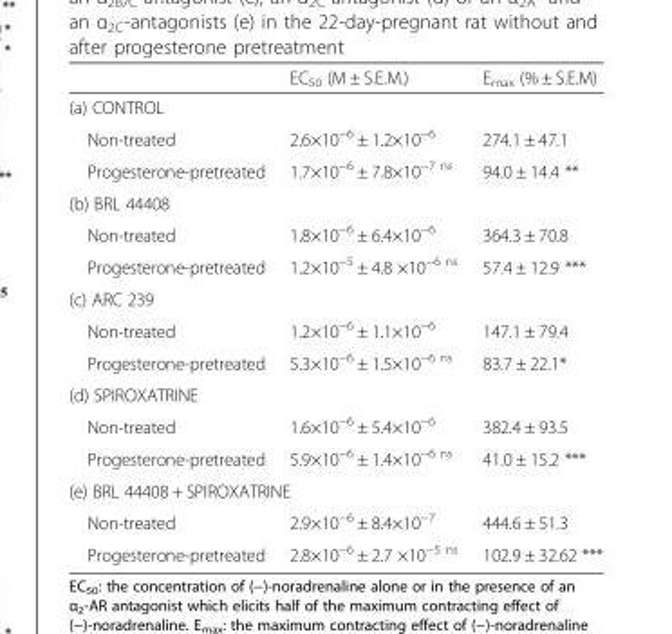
<table><thead><tr><td></td><td>EC<sub>50</sub> (M ± S.E.M.)</td><td>E<sub>max</sub> (% ± S.E.M)</td></tr></thead><tbody><tr><td colspan="3">(a) CONTROL</td></tr><tr><td>Non-treated</td><td>2.6×10<sup>−6</sup> ± 1.2×10<sup>−6</sup></td><td>274.1 ± 47.1</td></tr><tr><td>Progesterone-pretreated</td><td>1.7×10<sup>−6</sup> ± 7.8×10<sup>−7 ns</sup></td><td>94.0 ± 14.4 **</td></tr><tr><td colspan="3">(b) BRL 44408</td></tr><tr><td>Non-treated</td><td>1.8×10<sup>−6</sup> ± 6.4×10<sup>−6</sup></td><td>364.3 ± 70.8</td></tr><tr><td>Progesterone-pretreated</td><td>1.2×10<sup>−5</sup> ± 4.8 ×10<sup>−6 ns</sup></td><td>57.4 ± 12.9 ***</td></tr><tr><td colspan="3">(c) ARC 239</td></tr><tr><td>Non-treated</td><td>1.2×10<sup>−6</sup> ± 1.1×10<sup>−6</sup></td><td>147.1 ± 79.4</td></tr><tr><td>Progesterone-pretreated</td><td>5.3×10<sup>−6</sup> ± 1.5×10<sup>−6 ns</sup></td><td>83.7 ± 22.1*</td></tr><tr><td colspan="3">(d) SPIROXATRINE</td></tr><tr><td>Non-treated</td><td>1.6×10<sup>−6</sup> ± 5.4×10<sup>−6</sup></td><td>382.4 ± 93.5</td></tr><tr><td>Progesterone-pretreated</td><td>5.9×10<sup>−6</sup> ± 1.4×10<sup>−6 ns</sup></td><td>41.0 ± 15.2 ***</td></tr><tr><td colspan="3">(e) BRL 44408 + SPIROXATRINE</td></tr><tr><td>Non-treated</td><td>2.9×10<sup>−6</sup> ± 8.4×10<sup>−7</sup></td><td>444.6 ± 51.3</td></tr><tr><td>Progesterone-pretreated</td><td>2.8×10<sup>−6</sup> ± 2.7 ×10<sup>−5 ns</sup></td><td>102.9 ± 32.62 ***</td></tr></tbody></table>